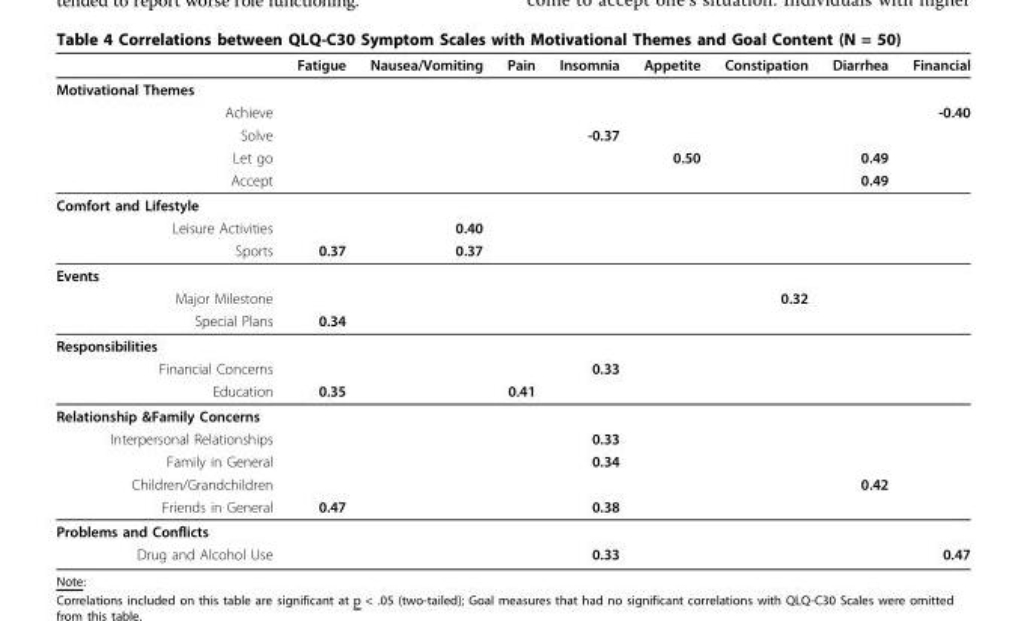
<table><thead><tr><td></td><td>Fatigue</td><td>Nausea/Vomiting</td><td>Pain</td><td>Insomnia</td><td>Appetite</td><td>Constipation</td><td>Diarrhea</td><td>Financial</td></tr></thead><tbody><tr><td colspan="9">Motivational Themes</td></tr><tr><td>Achieve</td><td></td><td></td><td></td><td></td><td></td><td></td><td></td><td>-0.40</td></tr><tr><td>Solve</td><td></td><td></td><td></td><td>-0.37</td><td></td><td></td><td></td><td></td></tr><tr><td>Let go</td><td></td><td></td><td></td><td></td><td>0.50</td><td></td><td>0.49</td><td></td></tr><tr><td>Accept</td><td></td><td></td><td></td><td></td><td></td><td></td><td>0.49</td><td></td></tr><tr><td colspan="9">Comfort and Lifestyle</td></tr><tr><td>Leisure Activities</td><td></td><td>0.40</td><td></td><td></td><td></td><td></td><td></td><td></td></tr><tr><td>Sports</td><td>0.37</td><td>0.37</td><td></td><td></td><td></td><td></td><td></td><td></td></tr><tr><td colspan="9">Events</td></tr><tr><td>Major Milestone</td><td></td><td></td><td></td><td></td><td></td><td>0.32</td><td></td><td></td></tr><tr><td>Special Plans</td><td>0.34</td><td></td><td></td><td></td><td></td><td></td><td></td><td></td></tr><tr><td colspan="9">Responsibilities</td></tr><tr><td>Financial Concerns</td><td></td><td></td><td></td><td>0.33</td><td></td><td></td><td></td><td></td></tr><tr><td>Education</td><td>0.35</td><td></td><td>0.41</td><td></td><td></td><td></td><td></td><td></td></tr><tr><td colspan="9">Relationship &amp;Family Concerns</td></tr><tr><td>Interpersonal Relationships</td><td></td><td></td><td></td><td>0.33</td><td></td><td></td><td></td><td></td></tr><tr><td>Family in General</td><td></td><td></td><td></td><td>0.34</td><td></td><td></td><td></td><td></td></tr><tr><td>Children/Grandchildren</td><td></td><td></td><td></td><td></td><td></td><td></td><td>0.42</td><td></td></tr><tr><td>Friends in General</td><td>0.47</td><td></td><td></td><td>0.38</td><td></td><td></td><td></td><td></td></tr><tr><td colspan="9">Problems and Conflicts</td></tr><tr><td>Drug and Alcohol Use</td><td></td><td></td><td></td><td>0.33</td><td></td><td></td><td></td><td>0.47</td></tr></tbody></table>